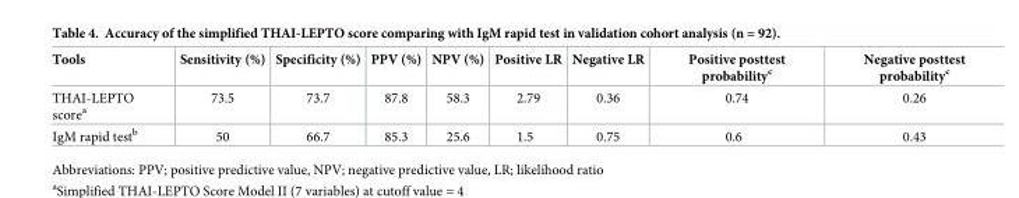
<table><thead><tr><td>Tools</td><td>Sensitivity (%)</td><td>Specificity (%)</td><td>PPV (%)</td><td>NPV (%)</td><td>Positive LR</td><td>Negative LR</td><td>Positive posttest probability<sup>c</sup></td><td>Negative posttest probability<sup>c</sup></td></tr></thead><tbody><tr><td>THAI-LEPTO score<sup>a</sup></td><td>73.5</td><td>73.7</td><td>87.8</td><td>58.3</td><td>2.79</td><td>0.36</td><td>0.74</td><td>0.26</td></tr><tr><td>IgM rapid test<sup>b</sup></td><td>50</td><td>66.7</td><td>85.3</td><td>25.6</td><td>1.5</td><td>0.75</td><td>0.6</td><td>0.43</td></tr></tbody></table>